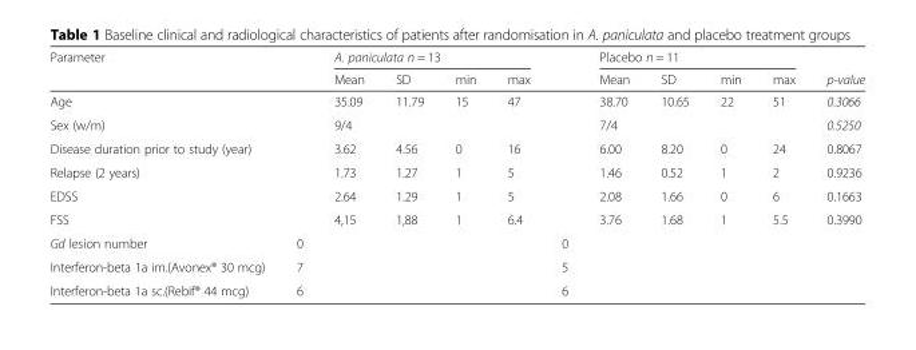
<table><thead><tr><td rowspan="2">Parameter</td><td rowspan="2"></td><td colspan="4">A. paniculata n = 13</td><td rowspan="2"></td><td colspan="4">Placebo n = 11</td><td rowspan="2">p-value</td></tr><tr><td>Mean</td><td>SD</td><td>min</td><td>max</td><td>Mean</td><td>SD</td><td>min</td><td>max</td></tr></thead><tbody><tr><td>Age</td><td></td><td>35.09</td><td>11.79</td><td>15</td><td>47</td><td></td><td>38.70</td><td>10.65</td><td>22</td><td>51</td><td>0.3066</td></tr><tr><td>Sex (w/m)</td><td></td><td>9/4</td><td></td><td></td><td></td><td></td><td>7/4</td><td></td><td></td><td></td><td>0.5250</td></tr><tr><td>Disease duration prior to study (year)</td><td></td><td>3.62</td><td>4.56</td><td>0</td><td>16</td><td></td><td>6.00</td><td>8.20</td><td>0</td><td>24</td><td>0.8067</td></tr><tr><td>Relapse (2 years)</td><td></td><td>1.73</td><td>1.27</td><td>1</td><td>5</td><td></td><td>1.46</td><td>0.52</td><td>1</td><td>2</td><td>0.9236</td></tr><tr><td>EDSS</td><td></td><td>2.64</td><td>1.29</td><td>1</td><td>5</td><td></td><td>2.08</td><td>1.66</td><td>0</td><td>6</td><td>0.1663</td></tr><tr><td>FSS</td><td></td><td>4,15</td><td>1,88</td><td>1</td><td>6.4</td><td></td><td>3.76</td><td>1.68</td><td>1</td><td>5.5</td><td>0.3990</td></tr><tr><td>Gd lesion number</td><td>0</td><td></td><td></td><td></td><td></td><td>0</td><td></td><td></td><td></td><td></td><td></td></tr><tr><td>Interferon-beta 1a im.(Avonex® 30 mcg)</td><td>7</td><td></td><td></td><td></td><td></td><td>5</td><td></td><td></td><td></td><td></td><td></td></tr><tr><td>Interferon-beta 1a sc.(Rebif® 44 mcg)</td><td>6</td><td></td><td></td><td></td><td></td><td>6</td><td></td><td></td><td></td><td></td><td></td></tr></tbody></table>